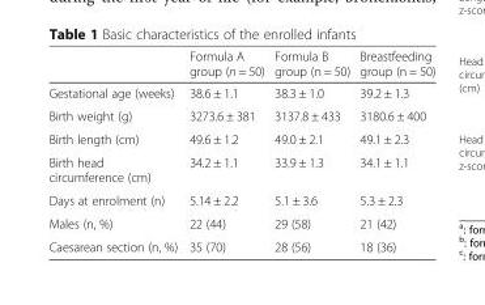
<table><thead><tr><td></td><td>Formula A group (n = 50)</td><td>Formula B group (n = 50)</td><td>Breastfeeding group (n = 50)</td></tr></thead><tbody><tr><td>Gestational age (weeks)</td><td>38.6 ± 1.1</td><td>38.3 ± 1.0</td><td>39.2 ± 1.3</td></tr><tr><td>Birth weight (g)</td><td>3273.6 ± 381</td><td>3137.8 ± 433</td><td>3180.6 ± 400</td></tr><tr><td>Birth length (cm)</td><td>49.6 ± 1.2</td><td>49.0 ± 2.1</td><td>49.1 ± 2.3</td></tr><tr><td>Birth head circumference (cm)</td><td>34.2 ± 1.1</td><td>33.9 ± 1.3</td><td>34.1 ± 1.1</td></tr><tr><td>Days at enrolment (n)</td><td>5.14 ± 2.2</td><td>5.1 ± 3.6</td><td>5.3 ± 2.3</td></tr><tr><td>Males (n, %)</td><td>22 (44)</td><td>29 (58)</td><td>21 (42)</td></tr><tr><td>Caesarean section (n, %)</td><td>35 (70)</td><td>28 (56)</td><td>18 (36)</td></tr></tbody></table>